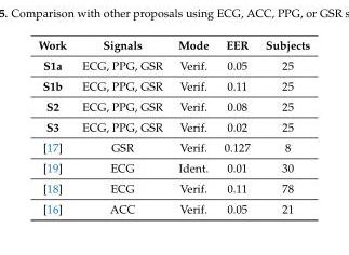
<table><thead><tr><td>Work</td><td>Signals</td><td>Mode</td><td>EER</td><td>Subjects</td></tr></thead><tbody><tr><td>S1a</td><td>ECG, PPG, GSR</td><td>Verif.</td><td>0.05</td><td>25</td></tr><tr><td>S1b</td><td>ECG, PPG, GSR</td><td>Verif.</td><td>0.11</td><td>25</td></tr><tr><td>S2</td><td>ECG, PPG, GSR</td><td>Verif.</td><td>0.08</td><td>25</td></tr><tr><td>S3</td><td>ECG, PPG, GSR</td><td>Verif.</td><td>0.02</td><td>25</td></tr><tr><td>[17]</td><td>GSR</td><td>Verif.</td><td>0.127</td><td>8</td></tr><tr><td>[19]</td><td>ECG</td><td>Ident.</td><td>0.01</td><td>30</td></tr><tr><td>[18]</td><td>ECG</td><td>Verif.</td><td>0.11</td><td>78</td></tr><tr><td>[16]</td><td>ACC</td><td>Verif.</td><td>0.05</td><td>21</td></tr></tbody></table>